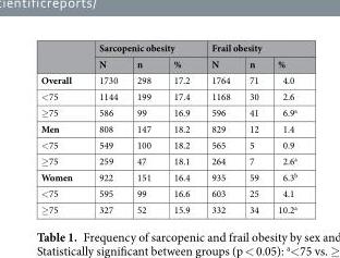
<table><thead><tr><td rowspan="2"></td><td colspan="3">Sarcopenic obesity</td><td colspan="3">Frail obesity</td></tr><tr><td>N</td><td>n</td><td>%</td><td>N</td><td>n</td><td>%</td></tr></thead><tbody><tr><td>Overall</td><td>1730</td><td>298</td><td>17.2</td><td>1764</td><td>71</td><td>4.0</td></tr><tr><td>&lt;75</td><td>1144</td><td>199</td><td>17.4</td><td>1168</td><td>30</td><td>2.6</td></tr><tr><td>≥75</td><td>586</td><td>99</td><td>16.9</td><td>596</td><td>41</td><td>6.9<sup>a</sup></td></tr><tr><td>Men</td><td>808</td><td>147</td><td>18.2</td><td>829</td><td>12</td><td>1.4</td></tr><tr><td>&lt;75</td><td>549</td><td>100</td><td>18.2</td><td>565</td><td>5</td><td>0.9</td></tr><tr><td>≥75</td><td>259</td><td>47</td><td>18.1</td><td>264</td><td>7</td><td>2.6<sup>a</sup></td></tr><tr><td>Women</td><td>922</td><td>151</td><td>16.4</td><td>935</td><td>59</td><td>6.3<sup>b</sup></td></tr><tr><td>&lt;75</td><td>595</td><td>99</td><td>16.6</td><td>603</td><td>25</td><td>4.1</td></tr><tr><td>≥75</td><td>327</td><td>52</td><td>15.9</td><td>332</td><td>34</td><td>10.2<sup>a</sup></td></tr></tbody></table>